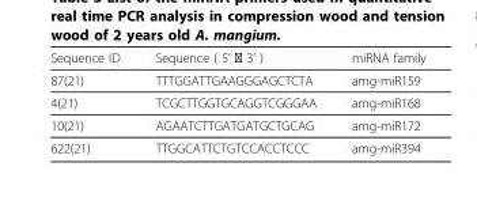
<table><thead><tr><td>Sequence ID</td><td>Sequence ( 5’ ➙ 3’ )</td><td>miRNA family</td></tr></thead><tbody><tr><td>87(21)</td><td>TTTGGATTGAAGGGAGCTCTA</td><td>amg-miR159</td></tr><tr><td>4(21)</td><td>TCGCTTGGTGCAGGTCGGGAA</td><td>amg-miR168</td></tr><tr><td>10(21)</td><td>AGAATCTTGATGATGCTGCAG</td><td>amg-miR172</td></tr><tr><td>622(21)</td><td>TTGGCATTCTGTCCACCTCCC</td><td>amg-miR394</td></tr></tbody></table>